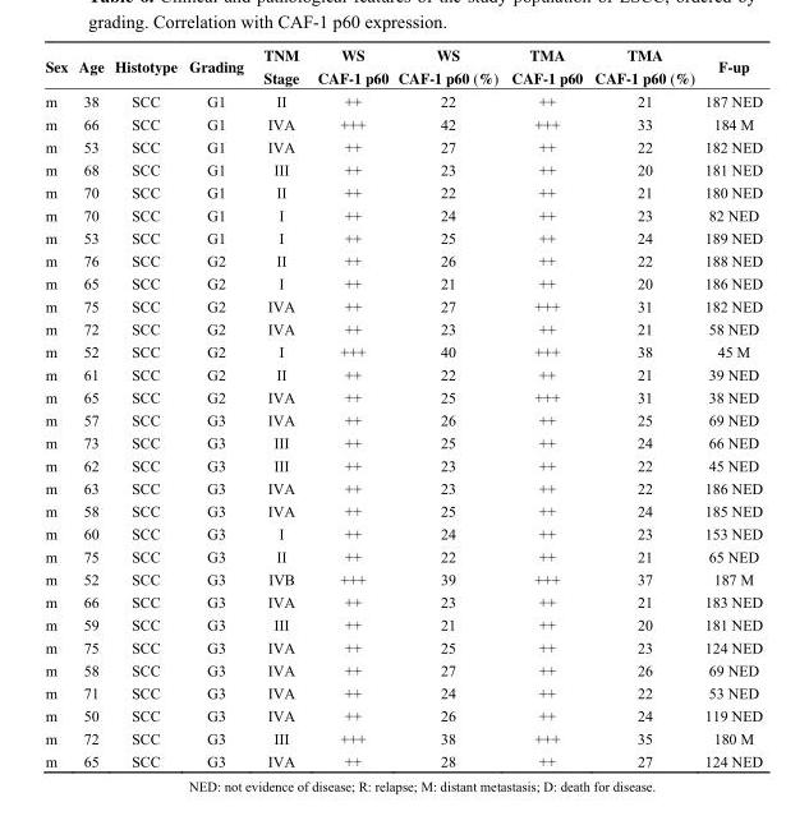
<table><thead><tr><td>Sex</td><td>Age</td><td>Histotype</td><td>Grading</td><td>TNM Stage</td><td>WS CAF-1 p60</td><td>WS CAF-1 p60 (%)</td><td>TMA CAF-1 p60</td><td>TMA CAF-1 p60 (%)</td><td>F-up</td></tr></thead><tbody><tr><td>m</td><td>38</td><td>SCC</td><td>G1</td><td>II</td><td>++</td><td>22</td><td>++</td><td>21</td><td>187 NED</td></tr><tr><td>m</td><td>66</td><td>SCC</td><td>G1</td><td>IVA</td><td>+++</td><td>42</td><td>+++</td><td>33</td><td>184 M</td></tr><tr><td>m</td><td>53</td><td>SCC</td><td>G1</td><td>IVA</td><td>++</td><td>27</td><td>++</td><td>22</td><td>182 NED</td></tr><tr><td>m</td><td>68</td><td>SCC</td><td>G1</td><td>III</td><td>++</td><td>23</td><td>++</td><td>20</td><td>181 NED</td></tr><tr><td>m</td><td>70</td><td>SCC</td><td>G1</td><td>II</td><td>++</td><td>22</td><td>++</td><td>21</td><td>180 NED</td></tr><tr><td>m</td><td>70</td><td>SCC</td><td>G1</td><td>I</td><td>++</td><td>24</td><td>++</td><td>23</td><td>82 NED</td></tr><tr><td>m</td><td>53</td><td>SCC</td><td>G1</td><td>I</td><td>++</td><td>25</td><td>++</td><td>24</td><td>189 NED</td></tr><tr><td>m</td><td>76</td><td>SCC</td><td>G2</td><td>II</td><td>++</td><td>26</td><td>++</td><td>22</td><td>188 NED</td></tr><tr><td>m</td><td>65</td><td>SCC</td><td>G2</td><td>I</td><td>++</td><td>21</td><td>++</td><td>20</td><td>186 NED</td></tr><tr><td>m</td><td>75</td><td>SCC</td><td>G2</td><td>IVA</td><td>++</td><td>27</td><td>+++</td><td>31</td><td>182 NED</td></tr><tr><td>m</td><td>72</td><td>SCC</td><td>G2</td><td>IVA</td><td>++</td><td>23</td><td>++</td><td>21</td><td>58 NED</td></tr><tr><td>m</td><td>52</td><td>SCC</td><td>G2</td><td>I</td><td>+++</td><td>40</td><td>+++</td><td>38</td><td>45 M</td></tr><tr><td>m</td><td>61</td><td>SCC</td><td>G2</td><td>II</td><td>++</td><td>22</td><td>++</td><td>21</td><td>39 NED</td></tr><tr><td>m</td><td>65</td><td>SCC</td><td>G2</td><td>IVA</td><td>++</td><td>25</td><td>+++</td><td>31</td><td>38 NED</td></tr><tr><td>m</td><td>57</td><td>SCC</td><td>G3</td><td>IVA</td><td>++</td><td>26</td><td>++</td><td>25</td><td>69 NED</td></tr><tr><td>m</td><td>73</td><td>SCC</td><td>G3</td><td>III</td><td>++</td><td>25</td><td>++</td><td>24</td><td>66 NED</td></tr><tr><td>m</td><td>62</td><td>SCC</td><td>G3</td><td>III</td><td>++</td><td>23</td><td>++</td><td>22</td><td>45 NED</td></tr><tr><td>m</td><td>63</td><td>SCC</td><td>G3</td><td>IVA</td><td>++</td><td>23</td><td>++</td><td>22</td><td>186 NED</td></tr><tr><td>m</td><td>58</td><td>SCC</td><td>G3</td><td>IVA</td><td>++</td><td>25</td><td>++</td><td>24</td><td>185 NED</td></tr><tr><td>m</td><td>60</td><td>SCC</td><td>G3</td><td>I</td><td>++</td><td>24</td><td>++</td><td>23</td><td>153 NED</td></tr><tr><td>m</td><td>75</td><td>SCC</td><td>G3</td><td>II</td><td>++</td><td>22</td><td>++</td><td>21</td><td>65 NED</td></tr><tr><td>m</td><td>52</td><td>SCC</td><td>G3</td><td>IVB</td><td>+++</td><td>39</td><td>+++</td><td>37</td><td>187 M</td></tr><tr><td>m</td><td>66</td><td>SCC</td><td>G3</td><td>IVA</td><td>++</td><td>23</td><td>++</td><td>21</td><td>183 NED</td></tr><tr><td>m</td><td>59</td><td>SCC</td><td>G3</td><td>III</td><td>++</td><td>21</td><td>++</td><td>20</td><td>181 NED</td></tr><tr><td>m</td><td>75</td><td>SCC</td><td>G3</td><td>IVA</td><td>++</td><td>25</td><td>++</td><td>23</td><td>124 NED</td></tr><tr><td>m</td><td>58</td><td>SCC</td><td>G3</td><td>IVA</td><td>++</td><td>27</td><td>++</td><td>26</td><td>69 NED</td></tr><tr><td>m</td><td>71</td><td>SCC</td><td>G3</td><td>IVA</td><td>++</td><td>24</td><td>++</td><td>22</td><td>53 NED</td></tr><tr><td>m</td><td>50</td><td>SCC</td><td>G3</td><td>IVA</td><td>++</td><td>26</td><td>++</td><td>24</td><td>119 NED</td></tr><tr><td>m</td><td>72</td><td>SCC</td><td>G3</td><td>III</td><td>+++</td><td>38</td><td>+++</td><td>35</td><td>180 M</td></tr><tr><td>m</td><td>65</td><td>SCC</td><td>G3</td><td>IVA</td><td>++</td><td>28</td><td>++</td><td>27</td><td>124 NED</td></tr></tbody></table>